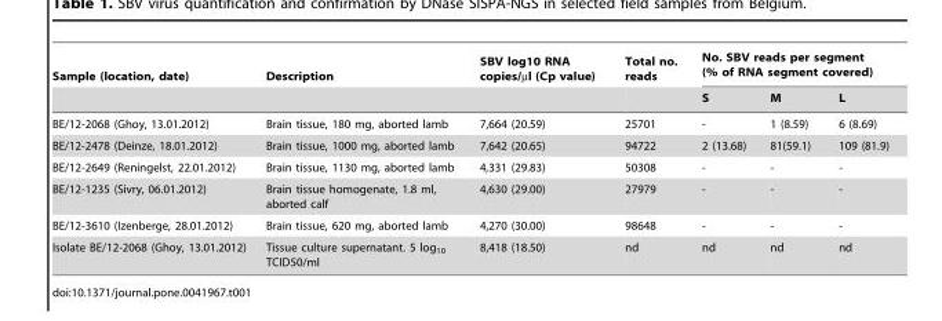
<table><thead><tr><td rowspan="2">Sample (location, date)</td><td rowspan="2">Description</td><td rowspan="2">SBV log10 RNA copies/µl (Cp value)</td><td rowspan="2">Total no. reads</td><td colspan="3">No. SBV reads per segment (% of RNA segment covered)</td></tr><tr><td>S</td><td>M</td><td>L</td></tr></thead><tbody><tr><td>BE/12-2068 (Ghoy, 13.01.2012)</td><td>Brain tissue, 180 mg, aborted lamb</td><td>7,664 (20.59)</td><td>25701</td><td>-</td><td>1 (8.59)</td><td>6 (8.69)</td></tr><tr><td>BE/12-2478 (Deinze, 18.01.2012)</td><td>Brain tissue, 1000 mg, aborted lamb</td><td>7,642 (20.65)</td><td>94722</td><td>2 (13.68)</td><td>81(59.1)</td><td>109 (81.9)</td></tr><tr><td>BE/12-2649 (Reningelst, 22.01.2012)</td><td>Brain tissue, 1130 mg, aborted lamb</td><td>4,331 (29.83)</td><td>50308</td><td>-</td><td>-</td><td>-</td></tr><tr><td>BE/12-1235 (Sivry, 06.01.2012)</td><td>Brain tissue homogenate, 1.8 ml, aborted calf</td><td>4,630 (29.00)</td><td>27979</td><td>-</td><td>-</td><td>-</td></tr><tr><td>BE/12-3610 (Izenberge, 28.01.2012)</td><td>Brain tissue, 620 mg, aborted lamb</td><td>4,270 (30.00)</td><td>98648</td><td>-</td><td>-</td><td>-</td></tr><tr><td>Isolate BE/12-2068 (Ghoy, 13.01.2012)</td><td>Tissue culture supernatant. 5 log<sub>10</sub> TCID50/ml</td><td>8,418 (18.50)</td><td>nd</td><td>nd</td><td>nd</td><td>nd</td></tr></tbody></table>